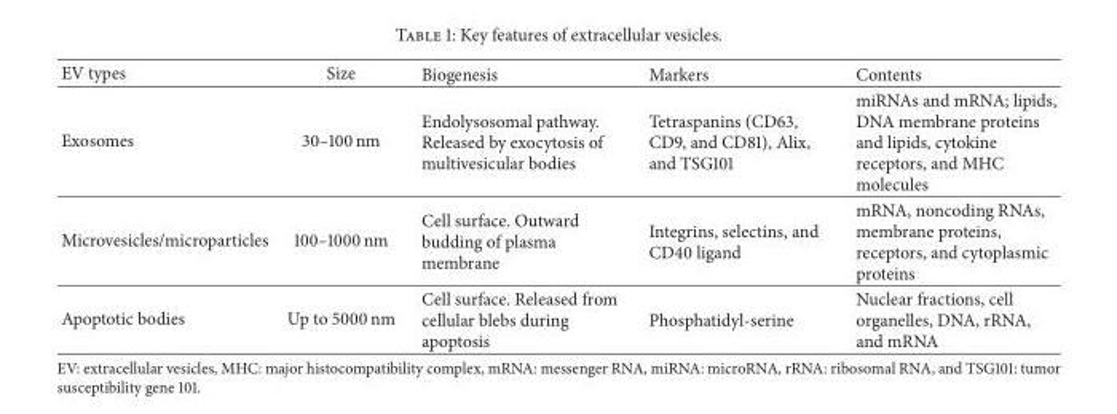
<table><thead><tr><td>EV types</td><td>Size</td><td>Biogenesis</td><td>Markers</td><td>Contents</td></tr></thead><tbody><tr><td>Exosomes</td><td>30–100 nm</td><td>Endolysosomal pathway. Released by exocytosis of multivesicular bodies</td><td>Tetraspanins (CD63, CD9, and CD81), Alix, and TSG101</td><td>miRNAs and mRNA; lipids, DNA membrane proteins and lipids, cytokine receptors, and MHC molecules</td></tr><tr><td>Microvesicles/microparticles</td><td>100–1000 nm</td><td>Cell surface. Outward budding of plasma membrane</td><td>Integrins, selectins, and CD40 ligand</td><td>mRNA, noncoding RNAs, membrane proteins, receptors, and cytoplasmic proteins</td></tr><tr><td>Apoptotic bodies</td><td>Up to 5000 nm</td><td>Cell surface. Released from cellular blebs during apoptosis</td><td>Phosphatidyl-serine</td><td>Nuclear fractions, cell organelles, DNA, rRNA, and mRNA</td></tr></tbody></table>